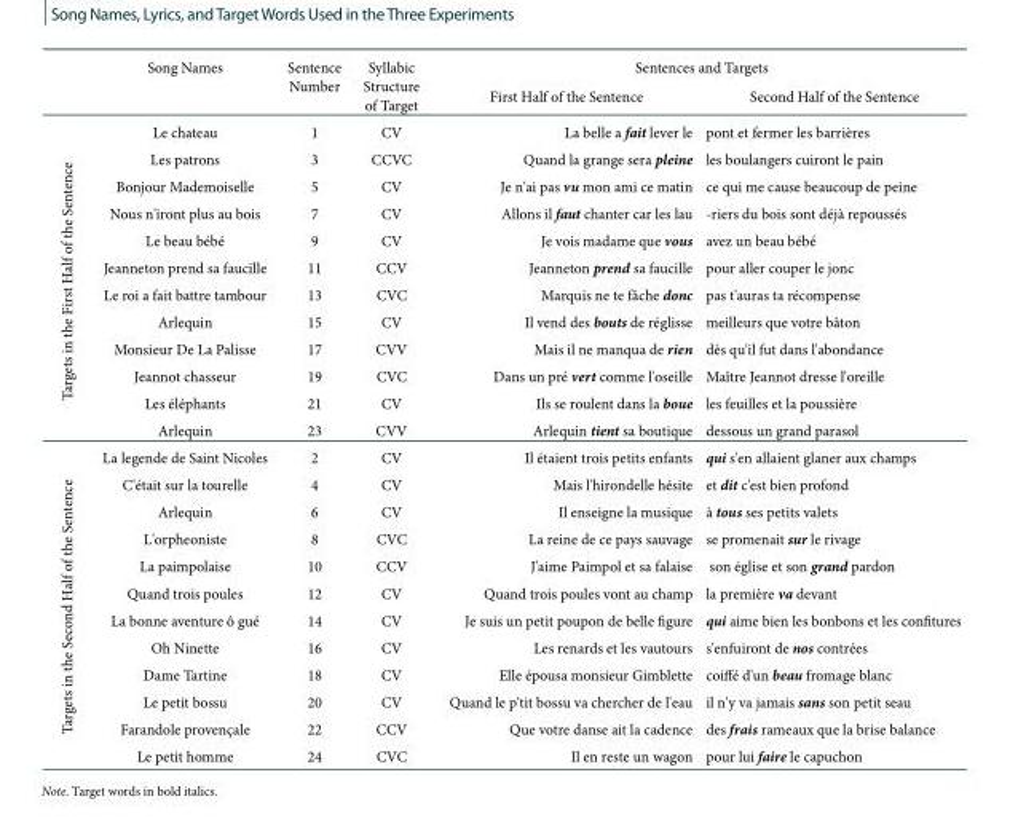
<table><thead><tr><td rowspan="2"></td><td rowspan="2">Song Names</td><td rowspan="2">Sentence Number</td><td rowspan="2">Syllabic Structure of Target</td><td colspan="2">Sentences and Targets</td></tr><tr><td>First Half of the Sentence</td><td>Second Half of the Sentence</td></tr></thead><tbody><tr><td rowspan="12">Targets in the First Half of the Sentence</td><td>Le chateau</td><td>1</td><td>CV</td><td>La belle a fait lever le</td><td>pont et fermer les barrières</td></tr><tr><td>Les patrons</td><td>3</td><td>CCVC</td><td>Quand la grange sera pleine</td><td>les boulangers cuiront le pain</td></tr><tr><td>Bonjour Mademoiselle</td><td>5</td><td>CV</td><td>Je n&#x27;ai pas vu mon ami ce matin</td><td>ce qui me cause beaucoup de peine</td></tr><tr><td>Nous n&#x27;iront plus au bois</td><td>7</td><td>CV</td><td>Allons il faut chanter car les lau</td><td>-riers du bois sont déjà repoussés</td></tr><tr><td>Le beau bébé</td><td>9</td><td>CV</td><td>Je vois madame que vous</td><td>avez un beau bébé</td></tr><tr><td>Jeanneton prend sa faucille</td><td>11</td><td>CCV</td><td>Jeanneton prend sa faucille</td><td>pour aller couper le jonc</td></tr><tr><td>Le roi a fait battre tambour</td><td>13</td><td>CVC</td><td>Marquis ne te fâche donc</td><td>pas t&#x27;auras ta récompense</td></tr><tr><td>Arlequin</td><td>15</td><td>CV</td><td>Il vend des bouts de réglisse</td><td>meilleurs que votre bâton</td></tr><tr><td>Monsieur De La Palisse</td><td>17</td><td>CVV</td><td>Mais il ne manqua de rien</td><td>dès qu&#x27;il fut dans l&#x27;abondance</td></tr><tr><td>Jeannot chasseur</td><td>19</td><td>CVC</td><td>Dans un pré vert comme l&#x27;oseille</td><td>Maître Jeannot dresse l&#x27;oreille</td></tr><tr><td>Les éléphants</td><td>21</td><td>CV</td><td>Ils se roulent dans la boue</td><td>les feuilles et la poussière</td></tr><tr><td>Arlequin</td><td>23</td><td>CVV</td><td>Arlequin tient sa boutique</td><td>dessous un grand parasol</td></tr><tr><td rowspan="12">Targets in the Second Half of the Sentence</td><td>La legende de Saint Nicoles</td><td>2</td><td>CV</td><td>Il étaient trois petits enfants</td><td>qui s&#x27;en allaient glaner aux champs</td></tr><tr><td>C&#x27;était sur la tourelle</td><td>4</td><td>CV</td><td>Mais l&#x27;hirondelle hésite</td><td>et dit c&#x27;est bien profond</td></tr><tr><td>Arlequin</td><td>6</td><td>CV</td><td>Il enseigne la musique</td><td>à tous ses petits valets</td></tr><tr><td>L&#x27;orpheoniste</td><td>8</td><td>CVC</td><td>La reine de ce pays sauvage</td><td>se promenait sur le rivage</td></tr><tr><td>La paimpolaise</td><td>10</td><td>CCV</td><td>J&#x27;aime Paimpol et sa falaise</td><td>son église et son grand pardon</td></tr><tr><td>Quand trois poules</td><td>12</td><td>CV</td><td>Quand trois poules vont au champ</td><td>la première va devant</td></tr><tr><td>La bonne aventure ô gué</td><td>14</td><td>CV</td><td>Je suis un petit poupon de belle figure</td><td>qui aime bien les bonbons et les confitures</td></tr><tr><td>Oh Ninette</td><td>16</td><td>CV</td><td>Les renards et les vautours</td><td>s&#x27;enfuiront de nos contrées</td></tr><tr><td>Dame Tartine</td><td>18</td><td>CV</td><td>Elle épousa monsieur Gimblette</td><td>coiffé d&#x27;un beau fromage blanc</td></tr><tr><td>Le petit bossu</td><td>20</td><td>CV</td><td>Quand le p&#x27;tit bossu va chercher de l&#x27;eau</td><td>il n&#x27;y va jamais sans son petit seau</td></tr><tr><td>Farandole provençale</td><td>22</td><td>CCV</td><td>Que votre danse ait la cadence</td><td>des frais rameaux que la brise balance</td></tr><tr><td>Le petit homme</td><td>24</td><td>CVC</td><td>Il en reste un wagon</td><td>pour lui faire le capuchon</td></tr></tbody></table>